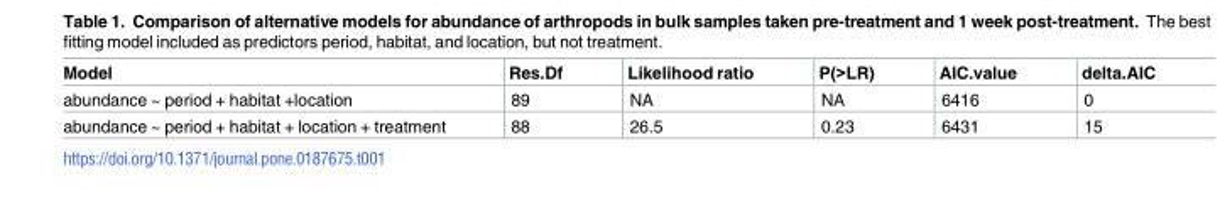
<table><thead><tr><td>Model</td><td>Res.Df</td><td>Likelihood ratio</td><td>P(&gt;LR)</td><td>AIC.value</td><td>delta.AIC</td></tr></thead><tbody><tr><td>abundance ~ period + habitat +location</td><td>89</td><td>NA</td><td>NA</td><td>6416</td><td>0</td></tr><tr><td>abundance ~ period + habitat + location + treatment</td><td>88</td><td>26.5</td><td>0.23</td><td>6431</td><td>15</td></tr></tbody></table>